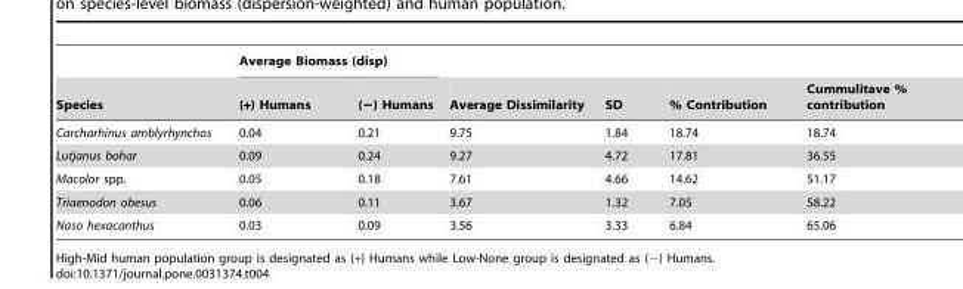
<table><thead><tr><td rowspan="2">Species</td><td colspan="2">Average Biomass (disp)</td><td rowspan="2">Average Dissimilarity</td><td rowspan="2">SD</td><td rowspan="2">% Contribution</td><td rowspan="2">Cummulitave % contribution</td></tr><tr><td>(+) Humans</td><td>(−) Humans</td></tr></thead><tbody><tr><td>Carcharhinus amblyrhynchos</td><td>0.04</td><td>0.21</td><td>9.75</td><td>1.84</td><td>18.74</td><td>18.74</td></tr><tr><td>Lutjanus bohar</td><td>0.09</td><td>0.24</td><td>9.27</td><td>4.72</td><td>17.81</td><td>36.55</td></tr><tr><td>Macolor spp.</td><td>0.05</td><td>0.18</td><td>7.61</td><td>4.66</td><td>14.62</td><td>51.17</td></tr><tr><td>Triaenodon obesus</td><td>0.06</td><td>0.11</td><td>3.67</td><td>1.32</td><td>7.05</td><td>58.22</td></tr><tr><td>Naso hexacanthus</td><td>0.03</td><td>0.09</td><td>3.56</td><td>3.33</td><td>6.84</td><td>65.06</td></tr></tbody></table>